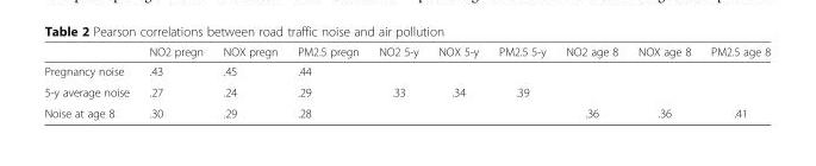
<table><thead><tr><td></td><td>NO2 pregn</td><td>NOX pregn</td><td>PM2.5 pregn</td><td>NO2 5-y</td><td>NOX 5-y</td><td>PM2.5 5-y</td><td>NO2 age 8</td><td>NOX age 8</td><td>PM2.5 age 8</td></tr></thead><tbody><tr><td>Pregnancy noise</td><td>.43</td><td>.45</td><td>.44</td><td></td><td></td><td></td><td></td><td></td><td></td></tr><tr><td>5-y average noise</td><td>.27</td><td>.24</td><td>.29</td><td>.33</td><td>.34</td><td>.39</td><td></td><td></td><td></td></tr><tr><td>Noise at age 8</td><td>.30</td><td>.29</td><td>.28</td><td></td><td></td><td></td><td>.36</td><td>.36</td><td>.41</td></tr></tbody></table>